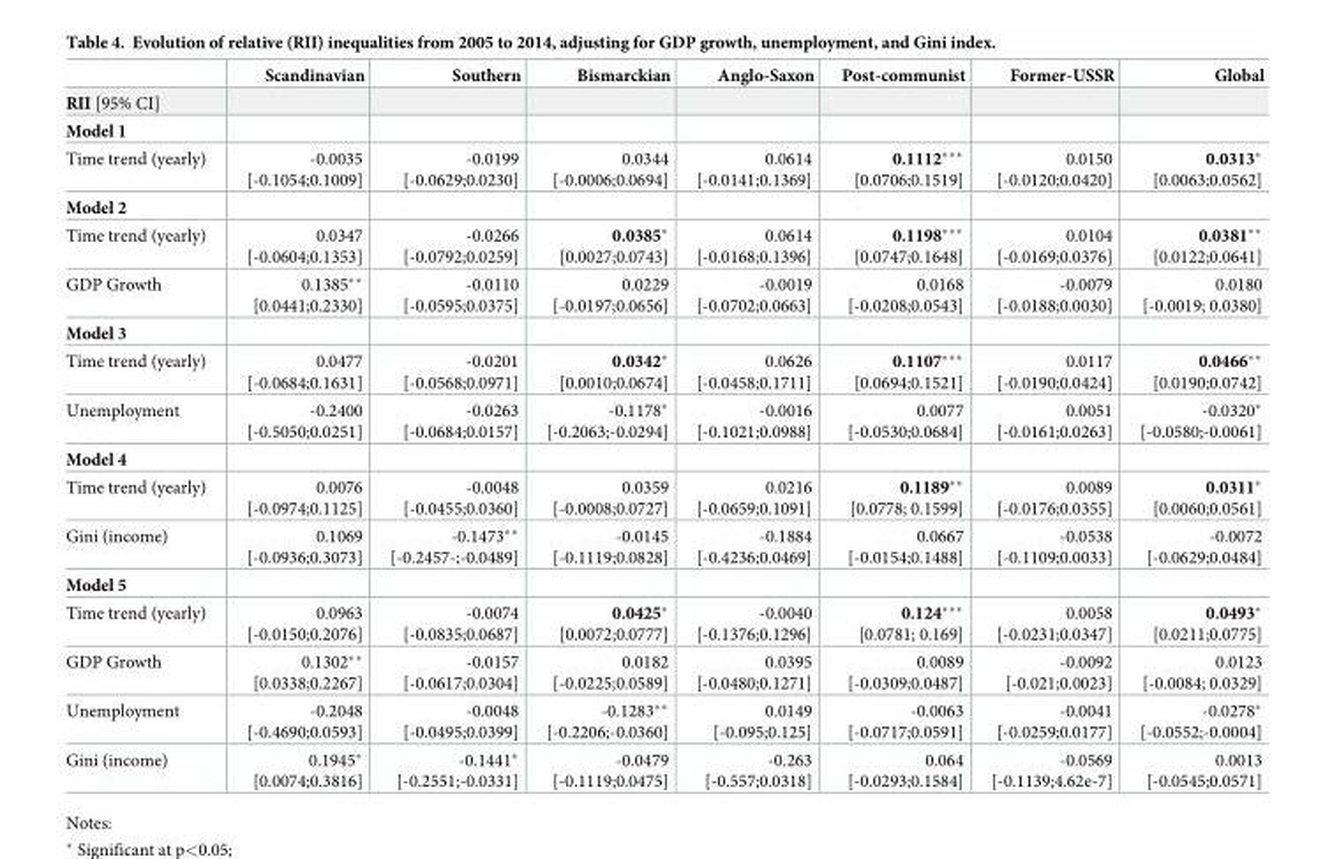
<table><thead><tr><td></td><td>Scandinavian</td><td>Southern</td><td>Bismarckian</td><td>Anglo-Saxon</td><td>Post-communist</td><td>Former-USSR</td><td>Global</td></tr></thead><tbody><tr><td colspan="8">RII [95% CI]</td></tr><tr><td colspan="8">Model 1</td></tr><tr><td>Time trend (yearly)</td><td>-0.0035 [-0.1054;0.1009]</td><td>-0.0199 [-0.0629;0.0230]</td><td>0.0344 [-0.0006;0.0694]</td><td>0.0614 [-0.0141;0.1369]</td><td>0.1112*** [0.0706;0.1519]</td><td>0.0150 [-0.0120;0.0420]</td><td>0.0313* [0.0063;0.0562]</td></tr><tr><td colspan="8">Model 2</td></tr><tr><td>Time trend (yearly)</td><td>0.0347 [-0.0604;0.1353]</td><td>-0.0266 [-0.0792;0.0259]</td><td>0.0385* [0.0027;0.0743]</td><td>0.0614 [-0.0168;0.1396]</td><td>0.1198*** [0.0747;0.1648]</td><td>0.0104 [-0.0169;0.0376]</td><td>0.0381** [0.0122;0.0641]</td></tr><tr><td>GDP Growth</td><td>0.1385** [0.0441;0.2330]</td><td>-0.0110 [-0.0595;0.0375]</td><td>0.0229 [-0.0197;0.0656]</td><td>-0.0019 [-0.0702;0.0663]</td><td>0.0168 [-0.0208;0.0543]</td><td>-0.0079 [-0.0188;0.0030]</td><td>0.0180 [-0.0019; 0.0380]</td></tr><tr><td colspan="8">Model 3</td></tr><tr><td>Time trend (yearly)</td><td>0.0477 [-0.0684;0.1631]</td><td>-0.0201 [-0.0568;0.0971]</td><td>0.0342* [0.0010;0.0674]</td><td>0.0626 [-0.0458;0.1711]</td><td>0.1107*** [0.0694;0.1521]</td><td>0.0117 [-0.0190;0.0424]</td><td>0.0466** [0.0190;0.0742]</td></tr><tr><td>Unemployment</td><td>-0.2400 [-0.5050;0.0251]</td><td>-0.0263 [-0.0684;0.0157]</td><td>-0.1178* [-0.2063;-0.0294]</td><td>-0.0016 [-0.1021;0.0988]</td><td>0.0077 [-0.0530;0.0684]</td><td>0.0051 [-0.0161;0.0263]</td><td>-0.0320* [-0.0580;-0.0061]</td></tr><tr><td colspan="8">Model 4</td></tr><tr><td>Time trend (yearly)</td><td>0.0076 [-0.0974;0.1125]</td><td>-0.0048 [-0.0455;0.0360]</td><td>0.0359 [-0.0008;0.0727]</td><td>0.0216 [-0.0659;0.1091]</td><td>0.1189** [0.0778; 0.1599]</td><td>0.0089 [-0.0176;0.0355]</td><td>0.0311* [0.0060;0.0561]</td></tr><tr><td>Gini (income)</td><td>0.1069 [-0.0936;0.3073]</td><td>-0.1473** [-0.2457-;-0.0489]</td><td>-0.0145 [-0.1119;0.0828]</td><td>-0.1884 [-0.4236;0.0469]</td><td>0.0667 [-0.0154;0.1488]</td><td>-0.0538 [-0.1109;0.0033]</td><td>-0.0072 [-0.0629;0.0484]</td></tr><tr><td colspan="8">Model 5</td></tr><tr><td>Time trend (yearly)</td><td>0.0963 [-0.0150;0.2076]</td><td>-0.0074 [-0.0835;0.0687]</td><td>0.0425* [0.0072;0.0777]</td><td>-0.0040 [-0.1376;0.1296]</td><td>0.124*** [0.0781; 0.169]</td><td>0.0058 [-0.0231;0.0347]</td><td>0.0493* [0.0211;0.0775]</td></tr><tr><td>GDP Growth</td><td>0.1302** [0.0338;0.2267]</td><td>-0.0157 [-0.0617;0.0304]</td><td>0.0182 [-0.0225;0.0589]</td><td>0.0395 [-0.0480;0.1271]</td><td>0.0089 [-0.0309;0.0487]</td><td>-0.0092 [-0.021;0.0023]</td><td>0.0123 [-0.0084; 0.0329]</td></tr><tr><td>Unemployment</td><td>-0.2048 [-0.4690;0.0593]</td><td>-0.0048 [-0.0495;0.0399]</td><td>-0.1283** [-0.2206;-0.0360]</td><td>0.0149 [-0.095;0.125]</td><td>-0.0063 [-0.0717;0.0591]</td><td>-0.0041 [-0.0259;0.0177]</td><td>-0.0278* [-0.0552;-0.0004]</td></tr><tr><td>Gini (income)</td><td>0.1945* [0.0074;0.3816]</td><td>-0.1441* [-0.2551;-0.0331]</td><td>-0.0479 [-0.1119;0.0475]</td><td>-0.263 [-0.557;0.0318]</td><td>0.064 [-0.0293;0.1584]</td><td>-0.0569 [-0.1139;4.62e-7]</td><td>0.0013 [-0.0545;0.0571]</td></tr></tbody></table>